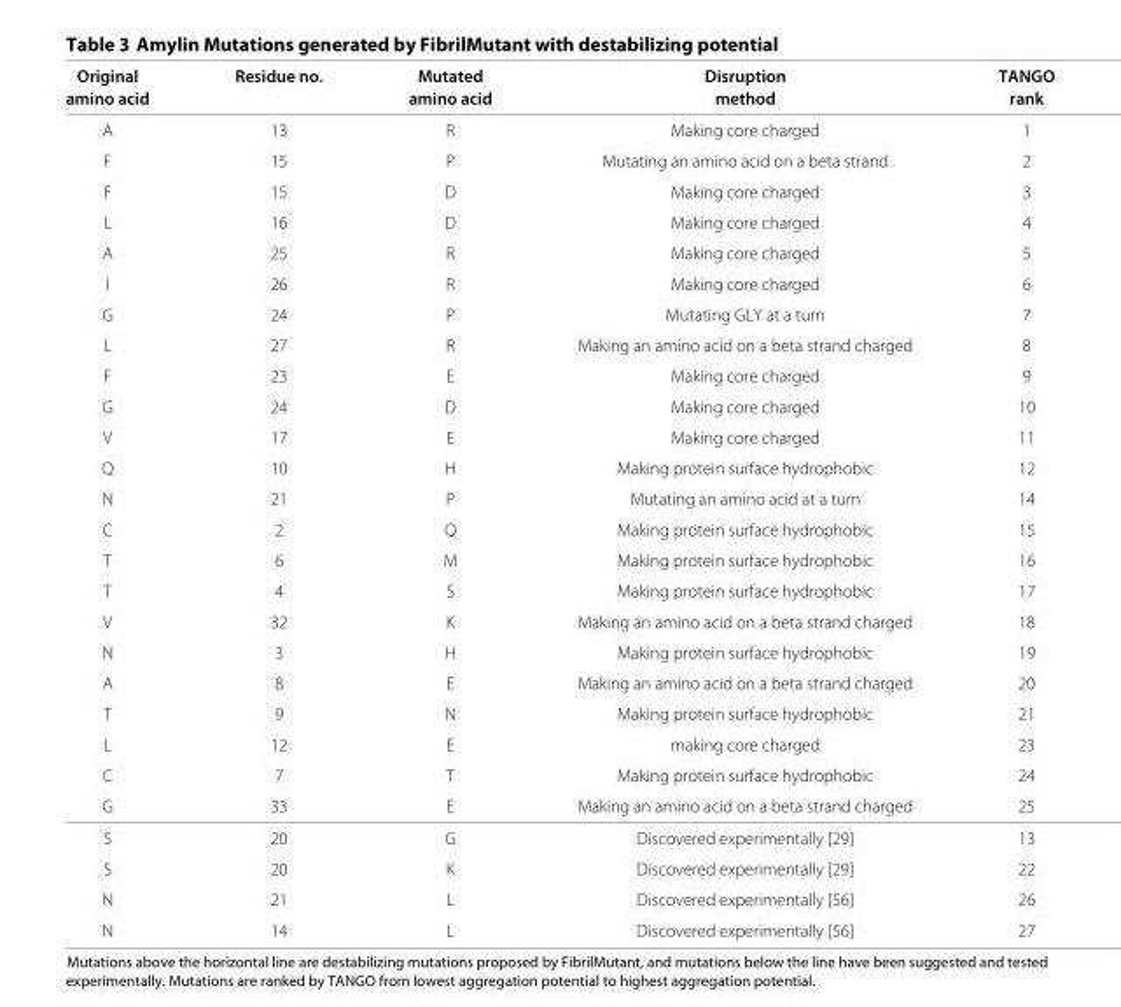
<table><thead><tr><td rowspan="2">Original amino acid</td><td rowspan="2">Residue no.</td><td rowspan="2">Mutated amino acid</td><td rowspan="2">Disruption method</td><td rowspan="2">TANGO rank</td></tr><tr></tr></thead><tbody><tr><td>A</td><td>13</td><td>R</td><td>Making core charged</td><td>1</td></tr><tr><td>F</td><td>15</td><td>P</td><td>Mutating an amino acid on a beta strand</td><td>2</td></tr><tr><td>F</td><td>15</td><td>D</td><td>Making core charged</td><td>3</td></tr><tr><td>L</td><td>16</td><td>D</td><td>Making core charged</td><td>4</td></tr><tr><td>A</td><td>25</td><td>R</td><td>Making core charged</td><td>5</td></tr><tr><td>I</td><td>26</td><td>R</td><td>Making core charged</td><td>6</td></tr><tr><td>G</td><td>24</td><td>P</td><td>Mutating GLY at a turn</td><td>7</td></tr><tr><td>L</td><td>27</td><td>R</td><td>Making an amino acid on a beta strand charged</td><td>8</td></tr><tr><td>F</td><td>23</td><td>E</td><td>Making core charged</td><td>9</td></tr><tr><td>G</td><td>24</td><td>D</td><td>Making core charged</td><td>10</td></tr><tr><td>V</td><td>17</td><td>E</td><td>Making core charged</td><td>11</td></tr><tr><td>Q</td><td>10</td><td>H</td><td>Making protein surface hydrophobic</td><td>12</td></tr><tr><td>N</td><td>21</td><td>P</td><td>Mutating an amino acid at a turn</td><td>14</td></tr><tr><td>C</td><td>2</td><td>Q</td><td>Making protein surface hydrophobic</td><td>15</td></tr><tr><td>T</td><td>6</td><td>M</td><td>Making protein surface hydrophobic</td><td>16</td></tr><tr><td>T</td><td>4</td><td>S</td><td>Making protein surface hydrophobic</td><td>17</td></tr><tr><td>V</td><td>32</td><td>K</td><td>Making an amino acid on a beta strand charged</td><td>18</td></tr><tr><td>N</td><td>3</td><td>H</td><td>Making protein surface hydrophobic</td><td>19</td></tr><tr><td>A</td><td>8</td><td>E</td><td>Making an amino acid on a beta strand charged</td><td>20</td></tr><tr><td>T</td><td>9</td><td>N</td><td>Making protein surface hydrophobic</td><td>21</td></tr><tr><td>L</td><td>12</td><td>E</td><td>making core charged</td><td>23</td></tr><tr><td>C</td><td>7</td><td>T</td><td>Making protein surface hydrophobic</td><td>24</td></tr><tr><td>G</td><td>33</td><td>E</td><td>Making an amino acid on a beta strand charged</td><td>25</td></tr><tr><td>S</td><td>20</td><td>G</td><td>Discovered experimentally [29]</td><td>13</td></tr><tr><td>S</td><td>20</td><td>K</td><td>Discovered experimentally [29]</td><td>22</td></tr><tr><td>N</td><td>21</td><td>L</td><td>Discovered experimentally [56]</td><td>26</td></tr><tr><td>N</td><td>14</td><td>L</td><td>Discovered experimentally [56]</td><td>27</td></tr></tbody></table>